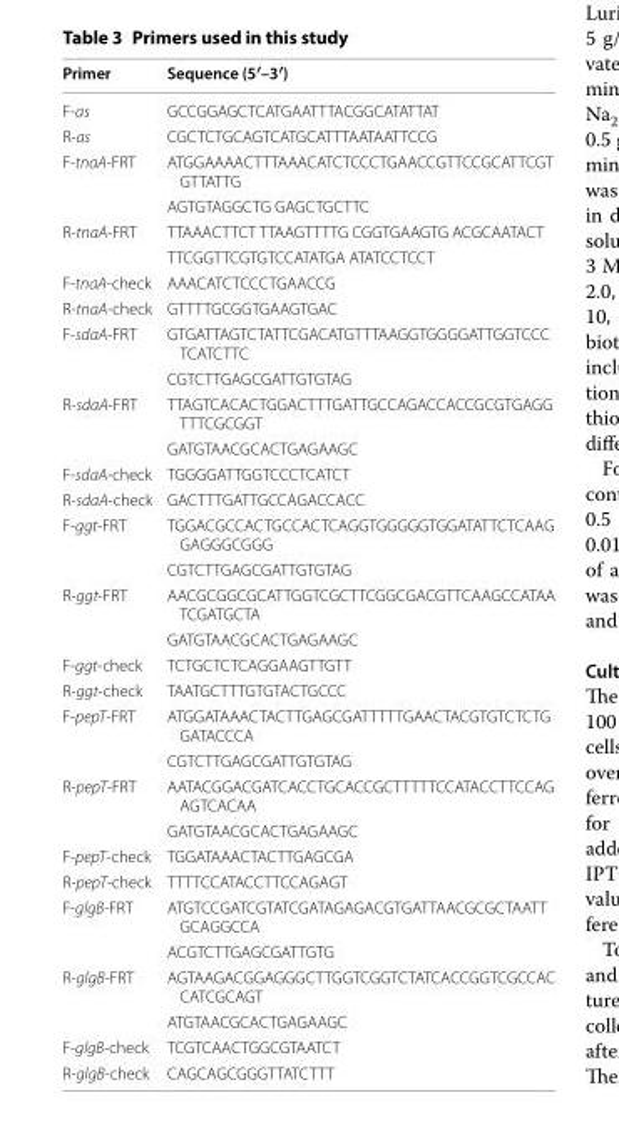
<table><thead><tr><td>Primer</td><td>Sequence (5′–3′)</td></tr></thead><tbody><tr><td>F-as</td><td>GCCGGAGCTCATGAATTTACGGCATATTAT</td></tr><tr><td>R-as</td><td>CGCTCTGCAGTCATGCATTTAATAATTCCG</td></tr><tr><td rowspan="2">F-tnaA-FRT</td><td>ATGGAAAACTTTAAACATCTCCCTGAACCGTTCCGCATTCGT GTTATTG</td></tr><tr><td>AGTGTAGGCTG GAGCTGCTTC</td></tr><tr><td rowspan="2">R-tnaA-FRT</td><td>TTAAACTTCT TTAAGTTTTG CGGTGAAGTG ACGCAATACT</td></tr><tr><td>TTCGGTTCGTGTCCATATGA ATATCCTCCT</td></tr><tr><td>F-tnaA-check</td><td>AAACATCTCCCTGAACCG</td></tr><tr><td>R-tnaA-check</td><td>GTTTTGCGGTGAAGTGAC</td></tr><tr><td rowspan="2">F-sdaA-FRT</td><td>GTGATTAGTCTATTCGACATGTTTAAGGTGGGGATTGGTCCC TCATCTTC</td></tr><tr><td>CGTCTTGAGCGATTGTGTAG</td></tr><tr><td rowspan="2">R-sdaA-FRT</td><td>TTAGTCACACTGGACTTTGATTGCCAGACCACCGCGTGAGG TTTCGCGGT</td></tr><tr><td>GATGTAACGCACTGAGAAGC</td></tr><tr><td>F-sdaA-check</td><td>TGGGGATTGGTCCCTCATCT</td></tr><tr><td>R-sdaA-check</td><td>GACTTTGATTGCCAGACCACC</td></tr><tr><td rowspan="2">F-ggt-FRT</td><td>TGGACGCCACTGCCACTCAGGTGGGGGTGGATATTCTCAAG GAGGGCGGG</td></tr><tr><td>CGTCTTGAGCGATTGTGTAG</td></tr><tr><td rowspan="2">R-ggt-FRT</td><td>AACGCGGCGCATTGGTCGCTTCGGCGACGTTCAAGCCATAA TCGATGCTA</td></tr><tr><td>GATGTAACGCACTGAGAAGC</td></tr><tr><td>F-ggt-check</td><td>TCTGCTCTCAGGAAGTTGTT</td></tr><tr><td>R-ggt-check</td><td>TAATGCTTTGTGTACTGCCC</td></tr><tr><td rowspan="2">F-pepT-FRT</td><td>ATGGATAAACTACTTGAGCGATTTTTGAACTACGTGTCTCTG GATACCCA</td></tr><tr><td>CGTCTTGAGCGATTGTGTAG</td></tr><tr><td rowspan="2">R-pepT-FRT</td><td>AATACGGACGATCACCTGCACCGCTTTTTCCATACCTTCCAG AGTCACAA</td></tr><tr><td>GATGTAACGCACTGAGAAGC</td></tr><tr><td>F-pepT-check</td><td>TGGATAAACTACTTGAGCGA</td></tr><tr><td>R-pepT-check</td><td>TTTTCCATACCTTCCAGAGT</td></tr><tr><td rowspan="2">F-glgB-FRT</td><td>ATGTCCGATCGTATCGATAGAGACGTGATTAACGCGCTAATT GCAGGCCA</td></tr><tr><td>ACGTCTTGAGCGATTGTG</td></tr><tr><td rowspan="2">R-glgB-FRT</td><td>AGTAAGACGGAGGGCTTGGTCGGTCTATCACCGGTCGCCAC CATCGCAGT</td></tr><tr><td>ATGTAACGCACTGAGAAGC</td></tr><tr><td>F-glgB-check</td><td>TCGTCAACTGGCGTAATCT</td></tr><tr><td>R-glgB-check</td><td>CAGCAGCGGGTTATCTTT</td></tr></tbody></table>